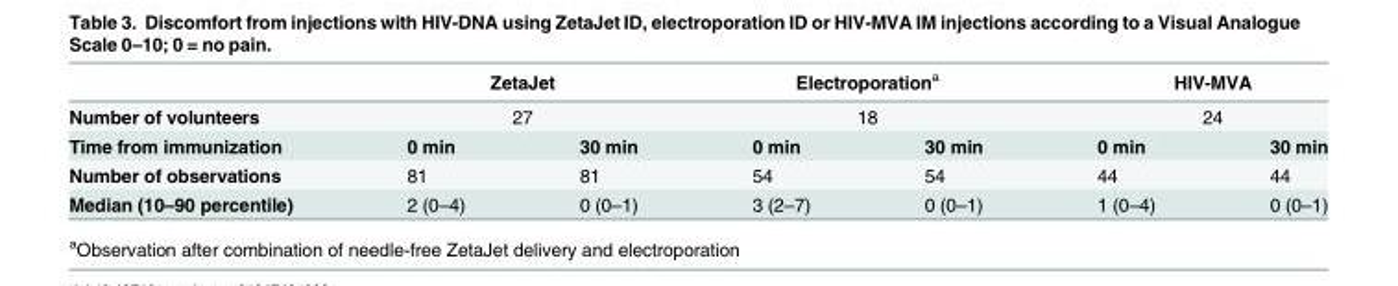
<table><thead><tr><td rowspan="3">Number of volunteers Time from immunization</td><td rowspan="2" colspan="2">ZetaJet 27</td><td rowspan="2" colspan="2">Electroporation<sup>a</sup> 18</td><td rowspan="2" colspan="2">HIV-MVA 24</td></tr><tr></tr><tr><td>0 min</td><td>30 min</td><td>0 min</td><td>30 min</td><td>0 min</td><td>30 min</td></tr></thead><tbody><tr><td>Number of observations</td><td>81</td><td>81</td><td>54</td><td>54</td><td>44</td><td>44</td></tr><tr><td>Median (10–90 percentile)</td><td>2 (0–4)</td><td>0 (0–1)</td><td>3 (2–7)</td><td>0 (0–1)</td><td>1 (0–4)</td><td>0 (0–1)</td></tr></tbody></table>